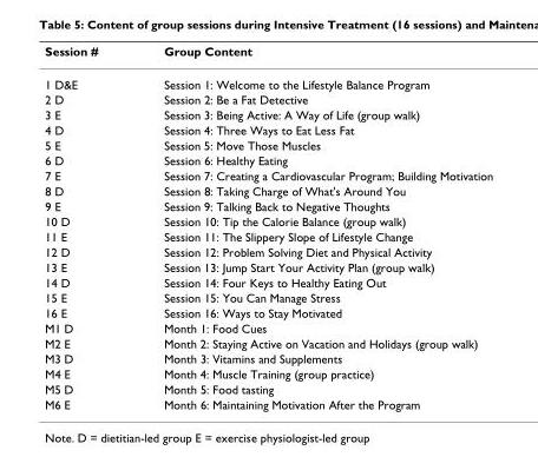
<table><thead><tr><td>Session #</td><td>Group Content</td></tr></thead><tbody><tr><td>1 D&amp;E</td><td>Session 1: Welcome to the Lifestyle Balance Program</td></tr><tr><td>2 D</td><td>Session 2: Be a Fat Detective</td></tr><tr><td>3 E</td><td>Session 3: Being Active: A Way of Life (group walk)</td></tr><tr><td>4 D</td><td>Session 4: Three Ways to Eat Less Fat</td></tr><tr><td>5 E</td><td>Session 5: Move Those Muscles</td></tr><tr><td>6 D</td><td>Session 6: Healthy Eating</td></tr><tr><td>7 E</td><td>Session 7: Creating a Cardiovascular Program; Building Motivation</td></tr><tr><td>8 D</td><td>Session 8: Taking Charge of What&#x27;s Around You</td></tr><tr><td>9 E</td><td>Session 9: Talking Back to Negative Thoughts</td></tr><tr><td>10 D</td><td>Session 10: Tip the Calorie Balance (group walk)</td></tr><tr><td>11 E</td><td>Session 11: The Slippery Slope of Lifestyle Change</td></tr><tr><td>12 D</td><td>Session 12: Problem Solving Diet and Physical Activity</td></tr><tr><td>13 E</td><td>Session 13: Jump Start Your Activity Plan (group walk)</td></tr><tr><td>14 D</td><td>Session 14: Four Keys to Healthy Eating Out</td></tr><tr><td>15 E</td><td>Session 15: You Can Manage Stress</td></tr><tr><td>16 E</td><td>Session 16: Ways to Stay Motivated</td></tr><tr><td>M1 D</td><td>Month 1: Food Cues</td></tr><tr><td>M2 E</td><td>Month 2: Staying Active on Vacation and Holidays (group walk)</td></tr><tr><td>M3 D</td><td>Month 3: Vitamins and Supplements</td></tr><tr><td>M4 E</td><td>Month 4: Muscle Training (group practice)</td></tr><tr><td>M5 D</td><td>Month 5: Food tasting</td></tr><tr><td>M6 E</td><td>Month 6: Maintaining Motivation After the Program</td></tr></tbody></table>